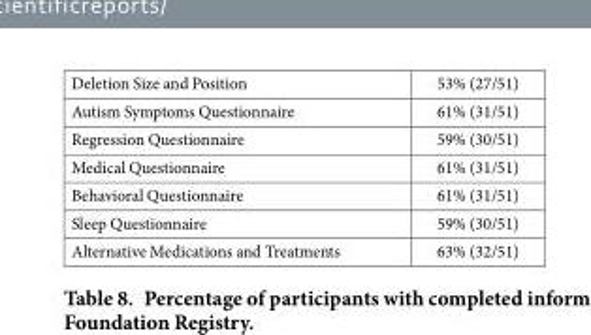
<table><tbody><tr><td>Deletion Size and Position</td><td>53% (27/51)</td></tr><tr><td>Autism Symptoms Questionnaire</td><td>61% (31/51)</td></tr><tr><td>Regression Questionnaire</td><td>59% (30/51)</td></tr><tr><td>Medical Questionnaire</td><td>61% (31/51)</td></tr><tr><td>Behavioral Questionnaire</td><td>61% (31/51)</td></tr><tr><td>Sleep Questionnaire</td><td>59% (30/51)</td></tr><tr><td>Alternative Medications and Treatments</td><td>63% (32/51)</td></tr></tbody></table>